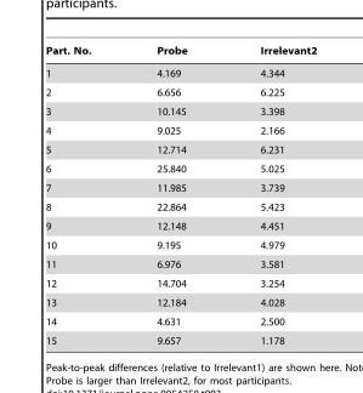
<table><thead><tr><td>Part. No.</td><td>Probe</td><td>Irrelevant2</td></tr></thead><tbody><tr><td>1</td><td>4.169</td><td>4.344</td></tr><tr><td>2</td><td>6.656</td><td>6.225</td></tr><tr><td>3</td><td>10.145</td><td>3.398</td></tr><tr><td>4</td><td>9.025</td><td>2.166</td></tr><tr><td>5</td><td>12.714</td><td>6.231</td></tr><tr><td>6</td><td>25.840</td><td>5.025</td></tr><tr><td>7</td><td>11.985</td><td>3.739</td></tr><tr><td>8</td><td>22.864</td><td>5.423</td></tr><tr><td>9</td><td>12.148</td><td>4.451</td></tr><tr><td>10</td><td>9.195</td><td>4.979</td></tr><tr><td>11</td><td>6.976</td><td>3.581</td></tr><tr><td>12</td><td>14.704</td><td>3.254</td></tr><tr><td>13</td><td>12.184</td><td>4.028</td></tr><tr><td>14</td><td>4.631</td><td>2.500</td></tr><tr><td>15</td><td>9.657</td><td>1.178</td></tr></tbody></table>